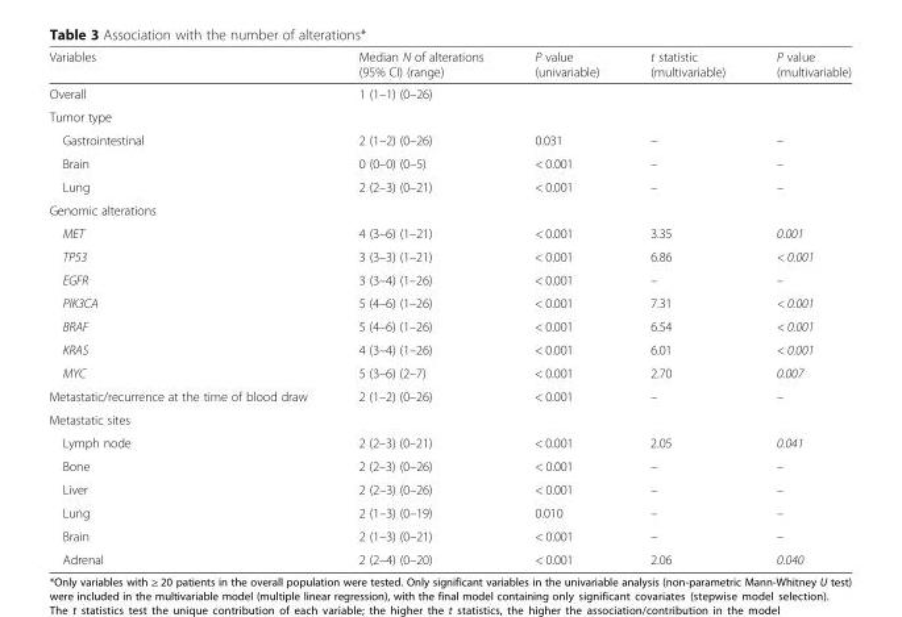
<table><thead><tr><td>Variables</td><td>Median N of alterations (95% CI) (range)</td><td>P value (univariable)</td><td>t statistic (multivariable)</td><td>P value (multivariable)</td></tr></thead><tbody><tr><td>Overall</td><td>1 (1–1) (0–26)</td><td></td><td></td><td></td></tr><tr><td colspan="5">Tumor type</td></tr><tr><td>Gastrointestinal</td><td>2 (1–2) (0–26)</td><td>0.031</td><td>–</td><td>–</td></tr><tr><td>Brain</td><td>0 (0–0) (0–5)</td><td>&lt; 0.001</td><td>–</td><td>–</td></tr><tr><td>Lung</td><td>2 (2–3) (0–21)</td><td>&lt; 0.001</td><td>–</td><td>–</td></tr><tr><td colspan="5">Genomic alterations</td></tr><tr><td>MET</td><td>4 (3–6) (1–21)</td><td>&lt; 0.001</td><td>3.35</td><td>0.001</td></tr><tr><td>TP53</td><td>3 (3–3) (1–21)</td><td>&lt; 0.001</td><td>6.86</td><td>&lt; 0.001</td></tr><tr><td>EGFR</td><td>3 (3–4) (1–26)</td><td>&lt; 0.001</td><td>–</td><td>–</td></tr><tr><td>PIK3CA</td><td>5 (4–6) (1–26)</td><td>&lt; 0.001</td><td>7.31</td><td>&lt; 0.001</td></tr><tr><td>BRAF</td><td>5 (4–6) (1–26)</td><td>&lt; 0.001</td><td>6.54</td><td>&lt; 0.001</td></tr><tr><td>KRAS</td><td>4 (3–4) (1–26)</td><td>&lt; 0.001</td><td>6.01</td><td>&lt; 0.001</td></tr><tr><td>MYC</td><td>5 (3–6) (2–7)</td><td>&lt; 0.001</td><td>2.70</td><td>0.007</td></tr><tr><td>Metastatic/recurrence at the time of blood draw</td><td>2 (1–2) (0–26)</td><td>&lt; 0.001</td><td>–</td><td>–</td></tr><tr><td colspan="5">Metastatic sites</td></tr><tr><td>Lymph node</td><td>2 (2–3) (0–21)</td><td>&lt; 0.001</td><td>2.05</td><td>0.041</td></tr><tr><td>Bone</td><td>2 (2–3) (0–26)</td><td>&lt; 0.001</td><td>–</td><td>–</td></tr><tr><td>Liver</td><td>2 (2–3) (0–26)</td><td>&lt; 0.001</td><td>–</td><td>–</td></tr><tr><td>Lung</td><td>2 (1–3) (0–19)</td><td>0.010</td><td>–</td><td>–</td></tr><tr><td>Brain</td><td>2 (1–3) (0–21)</td><td>&lt; 0.001</td><td>–</td><td>–</td></tr><tr><td>Adrenal</td><td>2 (2–4) (0–20)</td><td>&lt; 0.001</td><td>2.06</td><td>0.040</td></tr></tbody></table>